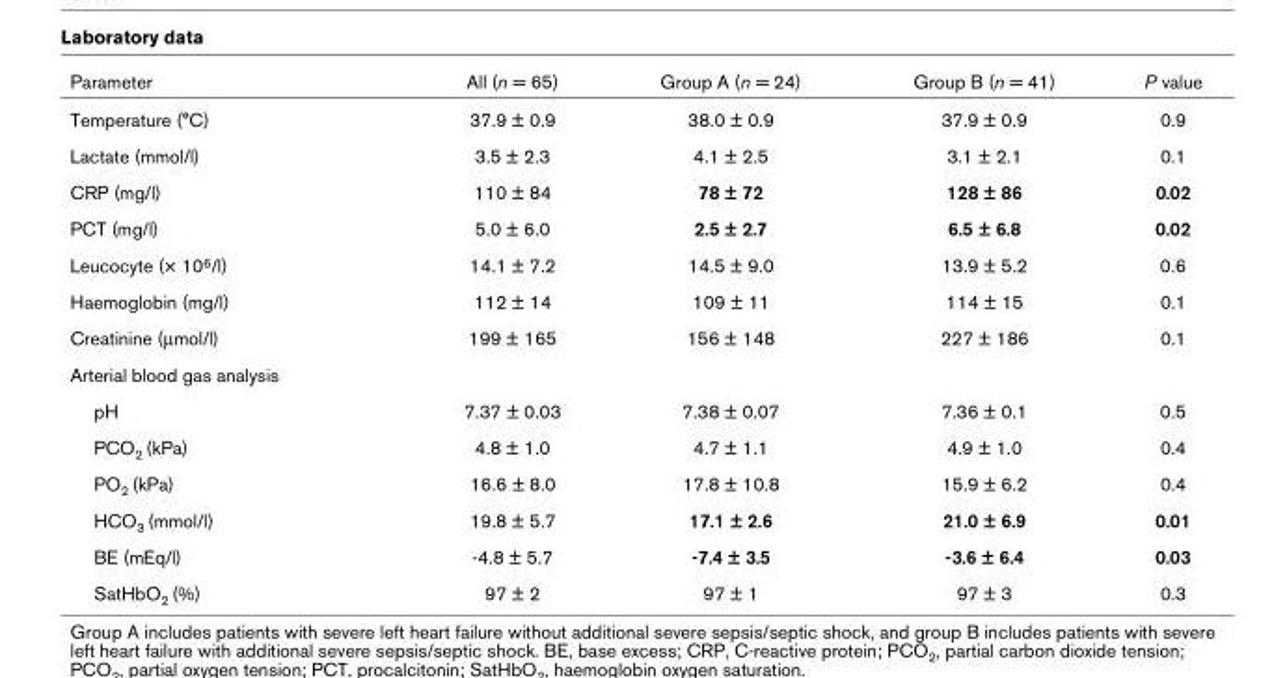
<table><thead><tr><td>Parameter</td><td>All (n = 65)</td><td>Group A (n = 24)</td><td>Group B (n = 41)</td><td>P value</td></tr></thead><tbody><tr><td>Temperature (°C)</td><td>37.9 ± 0.9</td><td>38.0 ± 0.9</td><td>37.9 ± 0.9</td><td>0.9</td></tr><tr><td>Lactate (mmol/l)</td><td>3.5 ± 2.3</td><td>4.1 ± 2.5</td><td>3.1 ± 2.1</td><td>0.1</td></tr><tr><td>CRP (mg/l)</td><td>110 ± 84</td><td>78 ± 72</td><td>128 ± 86</td><td>0.02</td></tr><tr><td>PCT (mg/l)</td><td>5.0 ± 6.0</td><td>2.5 ± 2.7</td><td>6.5 ± 6.8</td><td>0.02</td></tr><tr><td>Leucocyte (× 10<sup>6</sup>/l)</td><td>14.1 ± 7.2</td><td>14.5 ± 9.0</td><td>13.9 ± 5.2</td><td>0.6</td></tr><tr><td>Haemoglobin (mg/l)</td><td>112 ± 14</td><td>109 ± 11</td><td>114 ± 15</td><td>0.1</td></tr><tr><td>Creatinine (μmol/l)</td><td>199 ± 165</td><td>156 ± 148</td><td>227 ± 186</td><td>0.1</td></tr><tr><td colspan="5">Arterial blood gas analysis</td></tr><tr><td>pH</td><td>7.37 ± 0.03</td><td>7.38 ± 0.07</td><td>7.36 ± 0.1</td><td>0.5</td></tr><tr><td>PCO<sub>2</sub> (kPa)</td><td>4.8 ± 1.0</td><td>4.7 ± 1.1</td><td>4.9 ± 1.0</td><td>0.4</td></tr><tr><td>PO<sub>2</sub> (kPa)</td><td>16.6 ± 8.0</td><td>17.8 ± 10.8</td><td>15.9 ± 6.2</td><td>0.4</td></tr><tr><td>HCO<sub>3</sub> (mmol/l)</td><td>19.8 ± 5.7</td><td>17.1 ± 2.6</td><td>21.0 ± 6.9</td><td>0.01</td></tr><tr><td>BE (mEq/l)</td><td>-4.8 ± 5.7</td><td>-7.4 ± 3.5</td><td>-3.6 ± 6.4</td><td>0.03</td></tr><tr><td>SatHbO<sub>2</sub> (%)</td><td>97 ± 2</td><td>97 ± 1</td><td>97 ± 3</td><td>0.3</td></tr></tbody></table>